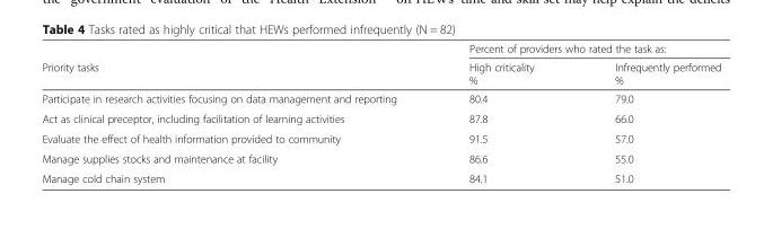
<table><thead><tr><td rowspan="2">Priority tasks</td><td colspan="2">Percent of providers who rated the task as:</td></tr><tr><td>High criticality %</td><td>Infrequently performed %</td></tr></thead><tbody><tr><td>Participate in research activities focusing on data management and reporting</td><td>80.4</td><td>79.0</td></tr><tr><td>Act as clinical preceptor, including facilitation of learning activities</td><td>87.8</td><td>66.0</td></tr><tr><td>Evaluate the effect of health information provided to community</td><td>91.5</td><td>57.0</td></tr><tr><td>Manage supplies stocks and maintenance at facility</td><td>86.6</td><td>55.0</td></tr><tr><td>Manage cold chain system</td><td>84.1</td><td>51.0</td></tr></tbody></table>